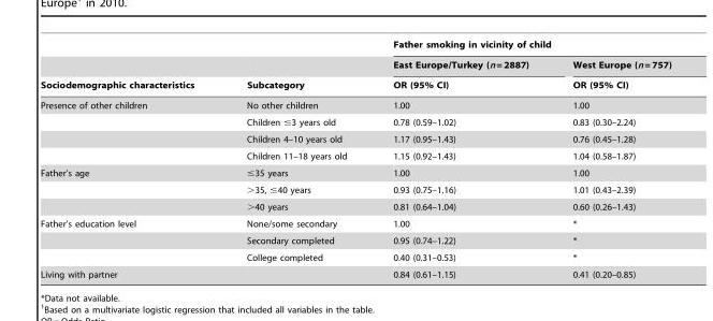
<table><thead><tr><td rowspan="3">Sociodemographic characteristics</td><td rowspan="3">Subcategory</td><td colspan="2">Father smoking in vicinity of child</td></tr><tr><td rowspan="2">East Europe/Turkey (n = 2887) OR (95% CI)</td><td rowspan="2">West Europe (n = 757) OR (95% CI)</td></tr><tr></tr></thead><tbody><tr><td rowspan="4">Presence of other children</td><td>No other children</td><td>1.00</td><td>1.00</td></tr><tr><td>Children ≤3 years old</td><td>0.78 (0.59–1.02)</td><td>0.83 (0.30–2.24)</td></tr><tr><td>Children 4–10 years old</td><td>1.17 (0.95–1.43)</td><td>0.76 (0.45–1.28)</td></tr><tr><td>Children 11–18 years old</td><td>1.15 (0.92–1.43)</td><td>1.04 (0.58–1.87)</td></tr><tr><td rowspan="3">Father’s age</td><td>≤35 years</td><td>1.00</td><td>1.00</td></tr><tr><td>&gt;35, ≤40 years</td><td>0.93 (0.75–1.16)</td><td>1.01 (0.43–2.39)</td></tr><tr><td>&gt;40 years</td><td>0.81 (0.64–1.04)</td><td>0.60 (0.26–1.43)</td></tr><tr><td rowspan="3">Father’s education level</td><td>None/some secondary</td><td>1.00</td><td>*</td></tr><tr><td>Secondary completed</td><td>0.95 (0.74–1.22)</td><td>*</td></tr><tr><td>College completed</td><td>0.40 (0.31–0.53)</td><td>*</td></tr><tr><td>Living with partner</td><td></td><td>0.84 (0.61–1.15)</td><td>0.41 (0.20–0.85)</td></tr></tbody></table>